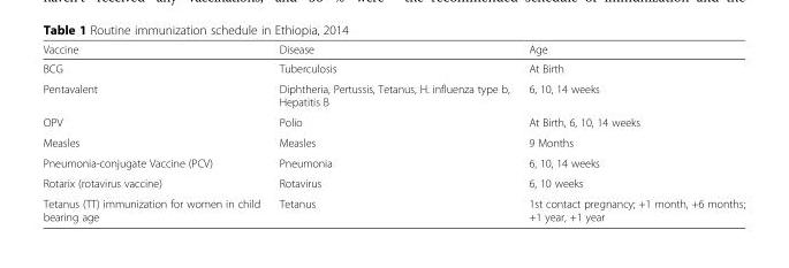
<table><thead><tr><td>Vaccine</td><td>Disease</td><td>Age</td></tr></thead><tbody><tr><td>BCG</td><td>Tuberculosis</td><td>At Birth</td></tr><tr><td>Pentavalent</td><td>Diphtheria, Pertussis, Tetanus, H. influenza type b, Hepatitis B</td><td>6, 10, 14 weeks</td></tr><tr><td>OPV</td><td>Polio</td><td>At Birth, 6, 10, 14 weeks</td></tr><tr><td>Measles</td><td>Measles</td><td>9 Months</td></tr><tr><td>Pneumonia-conjugate Vaccine (PCV)</td><td>Pneumonia</td><td>6, 10, 14 weeks</td></tr><tr><td>Rotarix (rotavirus vaccine)</td><td>Rotavirus</td><td>6, 10 weeks</td></tr><tr><td>Tetanus (TT) immunization for women in child bearing age</td><td>Tetanus</td><td>1st contact pregnancy; +1 month, +6 months; +1 year, +1 year</td></tr></tbody></table>